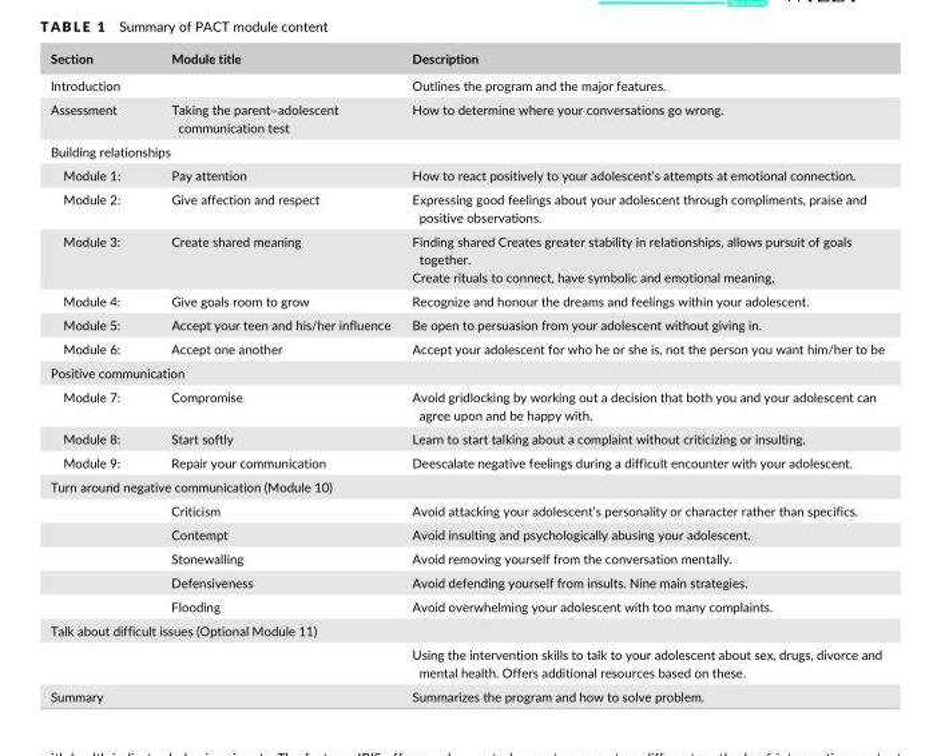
<table><thead><tr><td>Section</td><td>Module title</td><td>Description</td></tr></thead><tbody><tr><td>Introduction</td><td></td><td>Outlines the program and the major features.</td></tr><tr><td>Assessment</td><td>Taking the parent–adolescent communication test</td><td>How to determine where your conversations go wrong.</td></tr><tr><td colspan="3">Building relationships</td></tr><tr><td>Module 1:</td><td>Pay attention</td><td>How to react positively to your adolescent’s attempts at emotional connection.</td></tr><tr><td>Module 2:</td><td>Give affection and respect</td><td>Expressing good feelings about your adolescent through compliments, praise and positive observations.</td></tr><tr><td>Module 3:</td><td>Create shared meaning</td><td>Finding shared Creates greater stability in relationships, allows pursuit of goals together. Create rituals to connect, have symbolic and emotional meaning.</td></tr><tr><td>Module 4:</td><td>Give goals room to grow</td><td>Recognize and honour the dreams and feelings within your adolescent.</td></tr><tr><td>Module 5:</td><td>Accept your teen and his/her influence</td><td>Be open to persuasion from your adolescent without giving in.</td></tr><tr><td>Module 6:</td><td>Accept one another</td><td>Accept your adolescent for who he or she is, not the person you want him/her to be</td></tr><tr><td colspan="3">Positive communication</td></tr><tr><td>Module 7:</td><td>Compromise</td><td>Avoid gridlocking by working out a decision that both you and your adolescent can agree upon and be happy with.</td></tr><tr><td>Module 8:</td><td>Start softly</td><td>Learn to start talking about a complaint without criticizing or insulting.</td></tr><tr><td>Module 9:</td><td>Repair your communication</td><td>Deescalate negative feelings during a difficult encounter with your adolescent.</td></tr><tr><td colspan="3">Turn around negative communication (Module 10)</td></tr><tr><td></td><td>Criticism</td><td>Avoid attacking your adolescent’s personality or character rather than specifics.</td></tr><tr><td></td><td>Contempt</td><td>Avoid insulting and psychologically abusing your adolescent.</td></tr><tr><td></td><td>Stonewalling</td><td>Avoid removing yourself from the conversation mentally.</td></tr><tr><td></td><td>Defensiveness</td><td>Avoid defending yourself from insults. Nine main strategies.</td></tr><tr><td></td><td>Flooding</td><td>Avoid overwhelming your adolescent with too many complaints.</td></tr><tr><td colspan="3">Talk about difficult issues (Optional Module 11)</td></tr><tr><td></td><td></td><td>Using the intervention skills to talk to your adolescent about sex, drugs, divorce and mental health. Offers additional resources based on these.</td></tr><tr><td>Summary</td><td></td><td>Summarizes the program and how to solve problem.</td></tr></tbody></table>